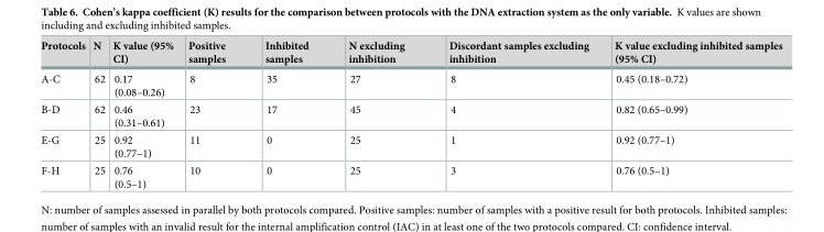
<table><thead><tr><td>Protocols</td><td>N</td><td>K value (95% CI)</td><td>Positive samples</td><td>Inhibited samples</td><td>N excluding inhibition</td><td>Discordant samples excluding inhibition</td><td>K value excluding inhibited samples (95% CI)</td></tr></thead><tbody><tr><td>A-C</td><td>62</td><td>0.17 (0.08–0.26)</td><td>8</td><td>35</td><td>27</td><td>8</td><td>0.45 (0.18–0.72)</td></tr><tr><td>B-D</td><td>62</td><td>0.46 (0.31–0.61)</td><td>23</td><td>17</td><td>45</td><td>4</td><td>0.82 (0.65–0.99)</td></tr><tr><td>E-G</td><td>25</td><td>0.92 (0.77–1)</td><td>11</td><td>0</td><td>25</td><td>1</td><td>0.92 (0.77–1)</td></tr><tr><td>F-H</td><td>25</td><td>0.76 (0.5–1)</td><td>10</td><td>0</td><td>25</td><td>3</td><td>0.76 (0.5–1)</td></tr></tbody></table>